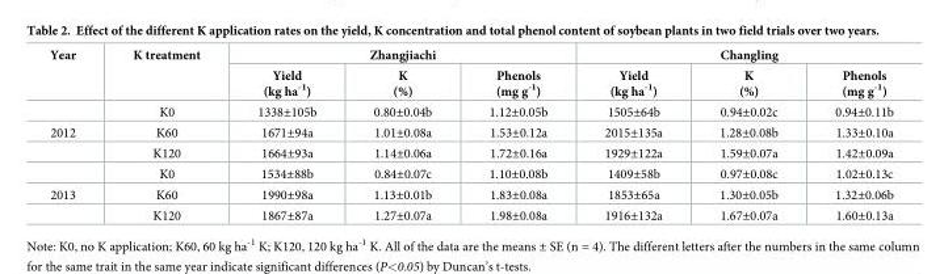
<table><thead><tr><td rowspan="2">Year</td><td rowspan="2">K treatment</td><td colspan="3">Zhangjiachi</td><td colspan="3">Changling</td></tr><tr><td>Yield (kg ha<sup>-1</sup>)</td><td>K (%)</td><td>Phenols (mg g<sup>-1</sup>)</td><td>Yield (kg ha<sup>-1</sup>)</td><td>K (%)</td><td>Phenols (mg g<sup>-1</sup>)</td></tr></thead><tbody><tr><td></td><td>K0</td><td>1338±105b</td><td>0.80±0.04b</td><td>1.12±0.05b</td><td>1505±64b</td><td>0.94±0.02c</td><td>0.94±0.11b</td></tr><tr><td rowspan="3">2012</td><td>K60</td><td>1671±94a</td><td>1.01±0.08a</td><td>1.53±0.12a</td><td>2015±135a</td><td>1.28±0.08b</td><td>1.33±0.10a</td></tr><tr><td>K120</td><td>1664±93a</td><td>1.14±0.06a</td><td>1.72±0.16a</td><td>1929±122a</td><td>1.59±0.07a</td><td>1.42±0.09a</td></tr><tr><td>K0</td><td>1534±88b</td><td>0.84±0.07c</td><td>1.10±0.08b</td><td>1409±58b</td><td>0.97±0.08c</td><td>1.02±0.13c</td></tr><tr><td rowspan="2">2013</td><td>K60</td><td>1990±98a</td><td>1.13±0.01b</td><td>1.83±0.08a</td><td>1853±65a</td><td>1.30±0.05b</td><td>1.32±0.06b</td></tr><tr><td>K120</td><td>1867±87a</td><td>1.27±0.07a</td><td>1.98±0.08a</td><td>1916±132a</td><td>1.67±0.07a</td><td>1.60±0.13a</td></tr></tbody></table>